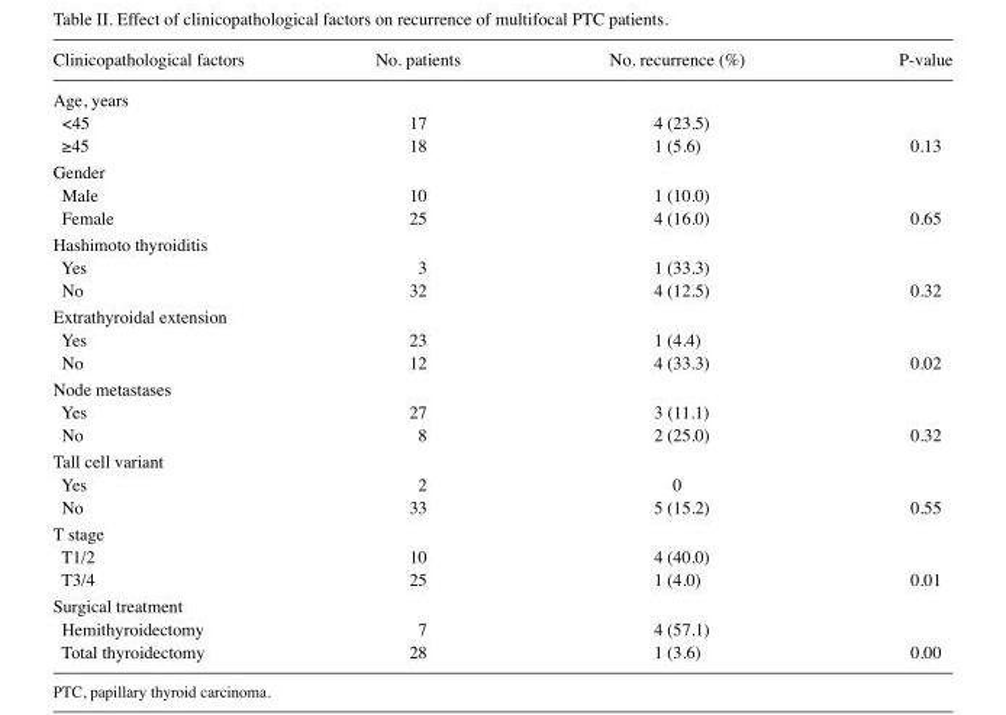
<table><thead><tr><td>Clinicopathological factors</td><td>No. patients</td><td>No. recurrence (%)</td><td>P-value</td></tr></thead><tbody><tr><td colspan="4">Age, years</td></tr><tr><td>&lt;45</td><td>17</td><td>4 (23.5)</td><td></td></tr><tr><td>≥45</td><td>18</td><td>1 (5.6)</td><td>0.13</td></tr><tr><td colspan="4">Gender</td></tr><tr><td>Male</td><td>10</td><td>1 (10.0)</td><td></td></tr><tr><td>Female</td><td>25</td><td>4 (16.0)</td><td>0.65</td></tr><tr><td colspan="4">Hashimoto thyroiditis</td></tr><tr><td>Yes</td><td>3</td><td>1 (33.3)</td><td></td></tr><tr><td>No</td><td>32</td><td>4 (12.5)</td><td>0.32</td></tr><tr><td colspan="4">Extrathyroidal extension</td></tr><tr><td>Yes</td><td>23</td><td>1 (4.4)</td><td></td></tr><tr><td>No</td><td>12</td><td>4 (33.3)</td><td>0.02</td></tr><tr><td colspan="4">Node metastases</td></tr><tr><td>Yes</td><td>27</td><td>3 (11.1)</td><td></td></tr><tr><td>No</td><td>8</td><td>2 (25.0)</td><td>0.32</td></tr><tr><td colspan="4">Tall cell variant</td></tr><tr><td>Yes</td><td>2</td><td>0</td><td></td></tr><tr><td>No</td><td>33</td><td>5 (15.2)</td><td>0.55</td></tr><tr><td colspan="4">T stage</td></tr><tr><td>T1/2</td><td>10</td><td>4 (40.0)</td><td></td></tr><tr><td>T3/4</td><td>25</td><td>1 (4.0)</td><td>0.01</td></tr><tr><td colspan="4">Surgical treatment</td></tr><tr><td>Hemithyroidectomy</td><td>7</td><td>4 (57.1)</td><td></td></tr><tr><td>Total thyroidectomy</td><td>28</td><td>1 (3.6)</td><td>0.00</td></tr></tbody></table>